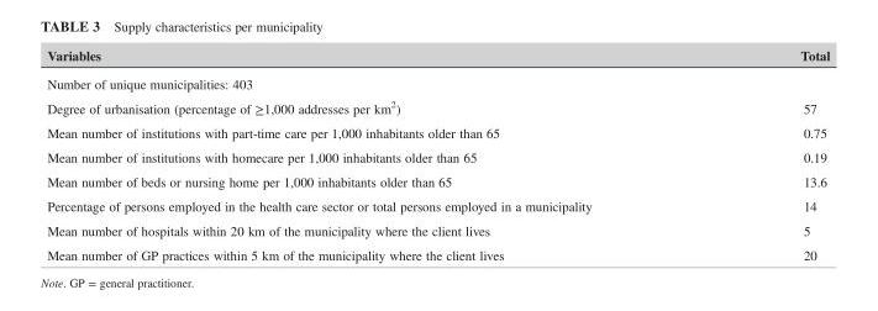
<table><thead><tr><td>Variables</td><td>Total</td></tr></thead><tbody><tr><td colspan="2">Number of unique municipalities: 403</td></tr><tr><td>Degree of urbanisation (percentage of ≥1,000 addresses per km<sup>2</sup>)</td><td>57</td></tr><tr><td>Mean number of institutions with part‐time care per 1,000 inhabitants older than 65</td><td>0.75</td></tr><tr><td>Mean number of institutions with homecare per 1,000 inhabitants older than 65</td><td>0.19</td></tr><tr><td>Mean number of beds or nursing home per 1,000 inhabitants older than 65</td><td>13.6</td></tr><tr><td>Percentage of persons employed in the health care sector or total persons employed in a municipality</td><td>14</td></tr><tr><td>Mean number of hospitals within 20 km of the municipality where the client lives</td><td>5</td></tr><tr><td>Mean number of GP practices within 5 km of the municipality where the client lives</td><td>20</td></tr></tbody></table>